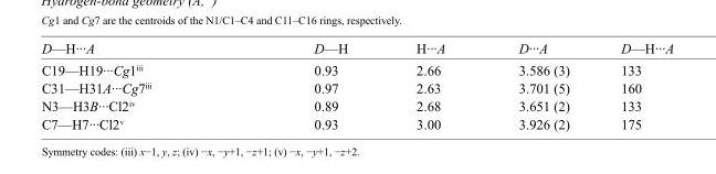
<table><tbody><tr><td>D—H···A</td><td>D—H</td><td>H···A</td><td>D···A</td><td>D—H···A</td></tr><tr><td>C19—H19···Cg1<sup>iii</sup></td><td>0.93</td><td>2.66</td><td>3.586 (3)</td><td>133</td></tr><tr><td>C31—H31A···Cg7<sup>iii</sup></td><td>0.97</td><td>2.63</td><td>3.701 (5)</td><td>160</td></tr><tr><td>N3—H3B···Cl2<sup>iv</sup></td><td>0.89</td><td>2.68</td><td>3.651 (2)</td><td>133</td></tr><tr><td>C7—H7···Cl2<sup>v</sup></td><td>0.93</td><td>3.00</td><td>3.926 (2)</td><td>175</td></tr></tbody></table>